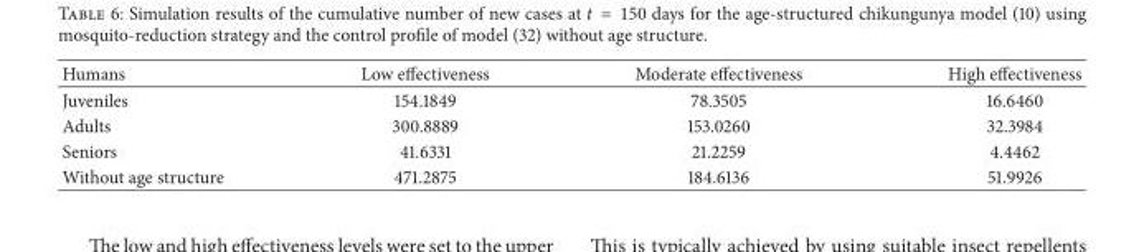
<table><thead><tr><td>Humans</td><td>Low effectiveness</td><td>Moderate effectiveness</td><td>High effectiveness</td></tr></thead><tbody><tr><td>Juveniles</td><td>154.1849</td><td>78.3505</td><td>16.6460</td></tr><tr><td>Adults</td><td>300.8889</td><td>153.0260</td><td>32.3984</td></tr><tr><td>Seniors</td><td>41.6331</td><td>21.2259</td><td>4.4462</td></tr><tr><td>Without age structure</td><td>471.2875</td><td>184.6136</td><td>51.9926</td></tr></tbody></table>